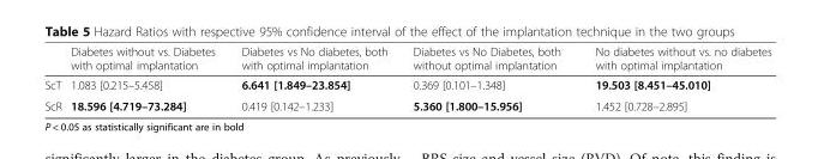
<table><thead><tr><td></td><td>Diabetes without vs. Diabetes with optimal implantation</td><td>Diabetes vs No diabetes, both with optimal implantation</td><td>Diabetes vs No Diabetes, both without optimal implantation</td><td>No diabetes without vs. no diabetes with optimal implantation</td></tr></thead><tbody><tr><td>ScT</td><td>1.083 [0.215–5.458]</td><td>6.641 [1.849–23.854]</td><td>0.369 [0.101–1.348]</td><td>19.503 [8.451–45.010]</td></tr><tr><td>ScR</td><td>18.596 [4.719–73.284]</td><td>0.419 [0.142–1.233]</td><td>5.360 [1.800–15.956]</td><td>1.452 [0.728–2.895]</td></tr></tbody></table>